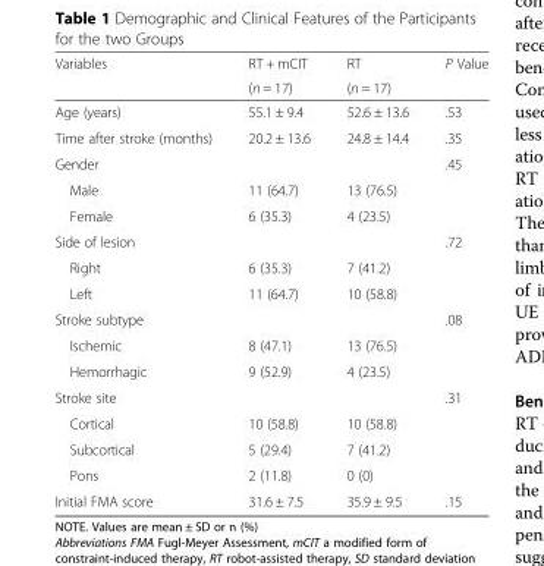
<table><thead><tr><td rowspan="2">Variables</td><td rowspan="2">RT + mCIT (n = 17)</td><td rowspan="2">RT (n = 17)</td><td rowspan="2">P Value</td></tr><tr></tr></thead><tbody><tr><td>Age (years)</td><td>55.1 ± 9.4</td><td>52.6 ± 13.6</td><td>.53</td></tr><tr><td>Time after stroke (months)</td><td>20.2 ± 13.6</td><td>24.8 ± 14.4</td><td>.35</td></tr><tr><td>Gender</td><td></td><td></td><td>.45</td></tr><tr><td>Male</td><td>11 (64.7)</td><td>13 (76.5)</td><td></td></tr><tr><td>Female</td><td>6 (35.3)</td><td>4 (23.5)</td><td></td></tr><tr><td>Side of lesion</td><td></td><td></td><td>.72</td></tr><tr><td>Right</td><td>6 (35.3)</td><td>7 (41.2)</td><td></td></tr><tr><td>Left</td><td>11 (64.7)</td><td>10 (58.8)</td><td></td></tr><tr><td>Stroke subtype</td><td></td><td></td><td>.08</td></tr><tr><td>Ischemic</td><td>8 (47.1)</td><td>13 (76.5)</td><td></td></tr><tr><td>Hemorrhagic</td><td>9 (52.9)</td><td>4 (23.5)</td><td></td></tr><tr><td>Stroke site</td><td></td><td></td><td>.31</td></tr><tr><td>Cortical</td><td>10 (58.8)</td><td>10 (58.8)</td><td></td></tr><tr><td>Subcortical</td><td>5 (29.4)</td><td>7 (41.2)</td><td></td></tr><tr><td>Pons</td><td>2 (11.8)</td><td>0 (0)</td><td></td></tr><tr><td>Initial FMA score</td><td>31.6 ± 7.5</td><td>35.9 ± 9.5</td><td>.15</td></tr></tbody></table>